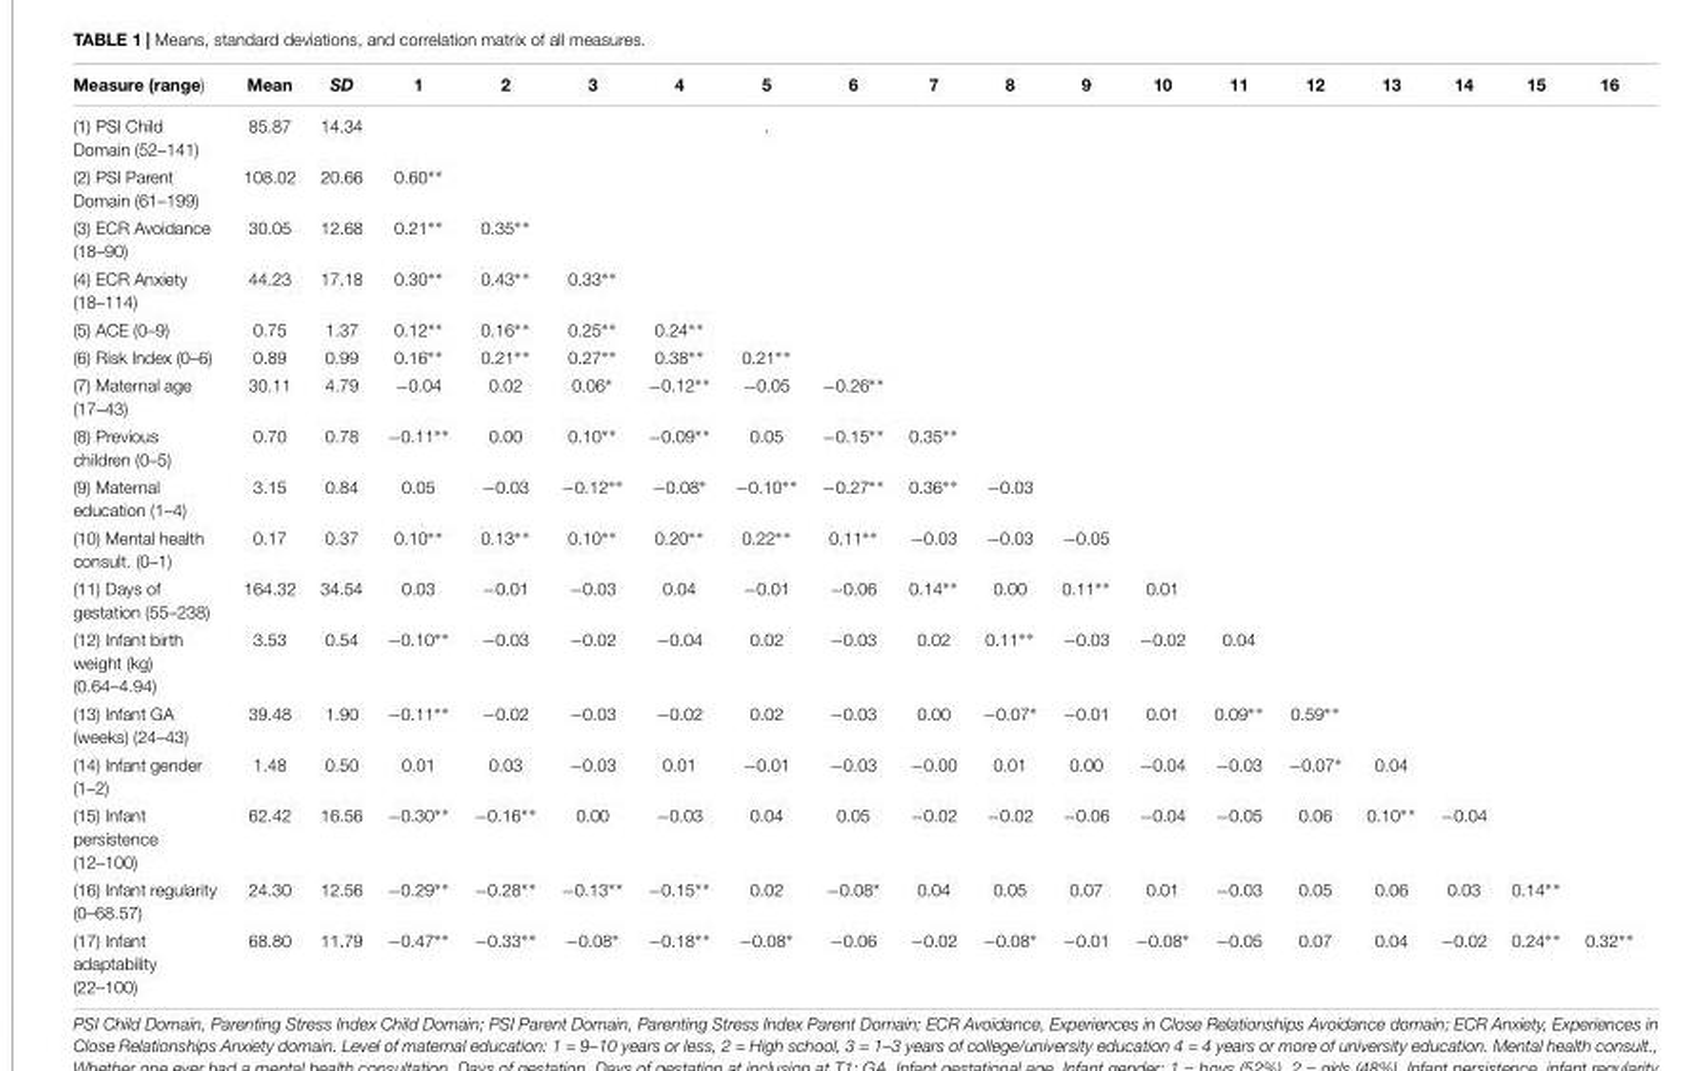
<table><thead><tr><td>Measure (range)</td><td>Mean</td><td>SD</td><td>1</td><td>2</td><td>3</td><td>4</td><td>5</td><td>6</td><td>7</td><td>8</td><td>9</td><td>10</td><td>11</td><td>12</td><td>13</td><td>14</td><td>15</td><td>16</td></tr></thead><tbody><tr><td>(1) PSI Child Domain (52–141)</td><td>85.87</td><td>14.34</td><td></td><td></td><td></td><td></td><td>.</td><td></td><td></td><td></td><td></td><td></td><td></td><td></td><td></td><td></td><td></td><td></td></tr><tr><td>(2) PSI Parent Domain (61–199)</td><td>108.02</td><td>20.66</td><td>0.60∗∗</td><td></td><td></td><td></td><td></td><td></td><td></td><td></td><td></td><td></td><td></td><td></td><td></td><td></td><td></td><td></td></tr><tr><td>(3) ECR Avoidance (18–90)</td><td>30.05</td><td>12.68</td><td>0.21∗∗</td><td>0.35∗∗</td><td></td><td></td><td></td><td></td><td></td><td></td><td></td><td></td><td></td><td></td><td></td><td></td><td></td><td></td></tr><tr><td>(4) ECR Anxiety (18–114)</td><td>44.23</td><td>17.18</td><td>0.30∗∗</td><td>0.43∗∗</td><td>0.33∗∗</td><td></td><td></td><td></td><td></td><td></td><td></td><td></td><td></td><td></td><td></td><td></td><td></td><td></td></tr><tr><td>(5) ACE (0–9)</td><td>0.75</td><td>1.37</td><td>0.12∗∗</td><td>0.16∗∗</td><td>0.25∗∗</td><td>0.24∗∗</td><td></td><td></td><td></td><td></td><td></td><td></td><td></td><td></td><td></td><td></td><td></td><td></td></tr><tr><td>(6) Risk Index (0–6)</td><td>0.89</td><td>0.99</td><td>0.16∗∗</td><td>0.21∗∗</td><td>0.27∗∗</td><td>0.38∗∗</td><td>0.21∗∗</td><td></td><td></td><td></td><td></td><td></td><td></td><td></td><td></td><td></td><td></td><td></td></tr><tr><td>(7) Maternal age (17–43)</td><td>30.11</td><td>4.79</td><td>−0.04</td><td>0.02</td><td>0.06∗</td><td>−0.12∗∗</td><td>−0.05</td><td>−0.26∗∗</td><td></td><td></td><td></td><td></td><td></td><td></td><td></td><td></td><td></td><td></td></tr><tr><td>(8) Previous children (0–5)</td><td>0.70</td><td>0.78</td><td>−0.11∗∗</td><td>0.00</td><td>0.10∗∗</td><td>−0.09∗∗</td><td>0.05</td><td>−0.15∗∗</td><td>0.35∗∗</td><td></td><td></td><td></td><td></td><td></td><td></td><td></td><td></td><td></td></tr><tr><td>(9) Maternal education (1–4)</td><td>3.15</td><td>0.84</td><td>0.05</td><td>−0.03</td><td>−0.12∗∗</td><td>−0.08∗</td><td>−0.10∗∗</td><td>−0.27∗∗</td><td>0.36∗∗</td><td>−0.03</td><td></td><td></td><td></td><td></td><td></td><td></td><td></td><td></td></tr><tr><td>(10) Mental health consult. (0–1)</td><td>0.17</td><td>0.37</td><td>0.10∗∗</td><td>0.13∗∗</td><td>0.10∗∗</td><td>0.20∗∗</td><td>0.22∗∗</td><td>0.11∗∗</td><td>−0.03</td><td>−0.03</td><td>−0.05</td><td></td><td></td><td></td><td></td><td></td><td></td><td></td></tr><tr><td>(11) Days of gestation (55–238)</td><td>164.32</td><td>34.54</td><td>0.03</td><td>−0.01</td><td>−0.03</td><td>0.04</td><td>−0.01</td><td>−0.06</td><td>0.14∗∗</td><td>0.00</td><td>0.11∗∗</td><td>0.01</td><td></td><td></td><td></td><td></td><td></td><td></td></tr><tr><td>(12) Infant birth weight (kg) (0.64–4.94)</td><td>3.53</td><td>0.54</td><td>−0.10∗∗</td><td>−0.03</td><td>−0.02</td><td>−0.04</td><td>0.02</td><td>−0.03</td><td>0.02</td><td>0.11∗∗</td><td>−0.03</td><td>−0.02</td><td>0.04</td><td></td><td></td><td></td><td></td><td></td></tr><tr><td>(13) Infant GA (weeks) (24–43)</td><td>39.48</td><td>1.90</td><td>−0.11∗∗</td><td>−0.02</td><td>−0.03</td><td>−0.02</td><td>0.02</td><td>−0.03</td><td>0.00</td><td>−0.07∗</td><td>−0.01</td><td>0.01</td><td>0.09∗∗</td><td>0.59∗∗</td><td></td><td></td><td></td><td></td></tr><tr><td>(14) Infant gender (1–2)</td><td>1.48</td><td>0.50</td><td>0.01</td><td>0.03</td><td>−0.03</td><td>0.01</td><td>−0.01</td><td>−0.03</td><td>−0.00</td><td>0.01</td><td>0.00</td><td>−0.04</td><td>−0.03</td><td>−0.07∗</td><td>0.04</td><td></td><td></td><td></td></tr><tr><td>(15) Infant persistence (12–100)</td><td>62.42</td><td>16.56</td><td>−0.30∗∗</td><td>−0.16∗∗</td><td>0.00</td><td>−0.03</td><td>0.04</td><td>0.05</td><td>−0.02</td><td>−0.02</td><td>−0.06</td><td>−0.04</td><td>−0.05</td><td>0.06</td><td>0.10∗∗</td><td>−0.04</td><td></td><td></td></tr><tr><td>(16) Infant regularity (0–68.57)</td><td>24.30</td><td>12.56</td><td>−0.29∗∗</td><td>−0.28∗∗</td><td>−0.13∗∗</td><td>−0.15∗∗</td><td>0.02</td><td>−0.08∗</td><td>0.04</td><td>0.05</td><td>0.07</td><td>0.01</td><td>−0.03</td><td>0.05</td><td>0.06</td><td>0.03</td><td>0.14∗∗</td><td></td></tr><tr><td>(17) Infant adaptability (22–100)</td><td>68.80</td><td>11.79</td><td>−0.47∗∗</td><td>−0.33∗∗</td><td>−0.08∗</td><td>−0.18∗∗</td><td>−0.08∗</td><td>−0.06</td><td>−0.02</td><td>−0.08∗</td><td>−0.01</td><td>−0.08∗</td><td>−0.05</td><td>0.07</td><td>0.04</td><td>−0.02</td><td>0.24∗∗</td><td>0.32∗∗</td></tr></tbody></table>